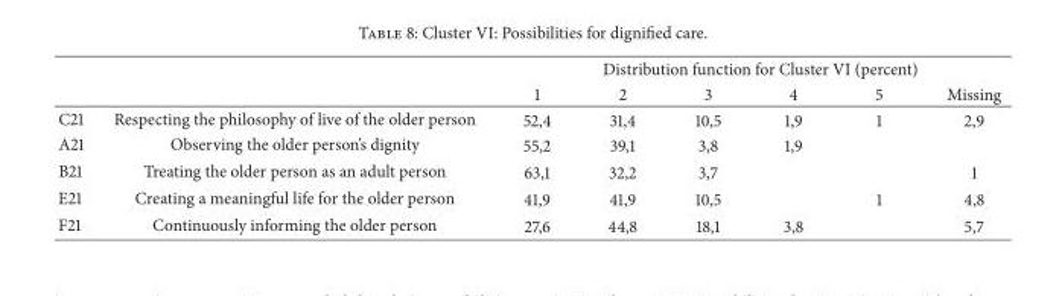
<table><thead><tr><td rowspan="2"></td><td rowspan="2"></td><td colspan="6">Distribution function for Cluster VI (percent)</td></tr><tr><td>1</td><td>2</td><td>3</td><td>4</td><td>5</td><td>Missing</td></tr></thead><tbody><tr><td>C21</td><td>Respecting the philosophy of live of the older person</td><td>52,4</td><td>31,4</td><td>10,5</td><td>1,9</td><td>1</td><td>2,9</td></tr><tr><td>A21</td><td>Observing the older person’s dignity</td><td>55,2</td><td>39,1</td><td>3,8</td><td>1,9</td><td></td><td></td></tr><tr><td>B21</td><td>Treating the older person as an adult person</td><td>63,1</td><td>32,2</td><td>3,7</td><td></td><td></td><td>1</td></tr><tr><td>E21</td><td>Creating a meaningful life for the older person</td><td>41,9</td><td>41,9</td><td>10,5</td><td></td><td>1</td><td>4,8</td></tr><tr><td>F21</td><td>Continuously informing the older person</td><td>27,6</td><td>44,8</td><td>18,1</td><td>3,8</td><td></td><td>5,7</td></tr></tbody></table>